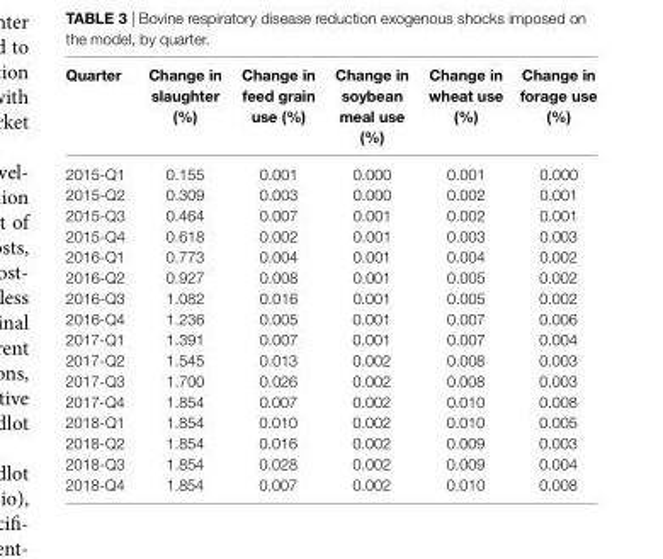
<table><thead><tr><td>Quarter</td><td>change in slaughter (%)</td><td>change in feed grain use (%)</td><td>change in soybean meal use (%)</td><td>change in wheat use (%)</td><td>change in forage use (%)</td></tr></thead><tbody><tr><td>2015-Q1</td><td>0.155</td><td>0.001</td><td>0.000</td><td>0.001</td><td>0.000</td></tr><tr><td>2015-Q2</td><td>0.309</td><td>0.003</td><td>0.000</td><td>0.002</td><td>0.001</td></tr><tr><td>2015-Q3</td><td>0.464</td><td>0.007</td><td>0.001</td><td>0.002</td><td>0.001</td></tr><tr><td>2015-Q4</td><td>0.618</td><td>0.002</td><td>0.001</td><td>0.003</td><td>0.003</td></tr><tr><td>2016-Q1</td><td>0.773</td><td>0.004</td><td>0.001</td><td>0.004</td><td>0.002</td></tr><tr><td>2016-Q2</td><td>0.927</td><td>0.008</td><td>0.001</td><td>0.005</td><td>0.002</td></tr><tr><td>2016-Q3</td><td>1.082</td><td>0.016</td><td>0.001</td><td>0.005</td><td>0.002</td></tr><tr><td>2016-Q4</td><td>1.236</td><td>0.005</td><td>0.001</td><td>0.007</td><td>0.006</td></tr><tr><td>2017-Q1</td><td>1.391</td><td>0.007</td><td>0.001</td><td>0.007</td><td>0.004</td></tr><tr><td>2017-Q2</td><td>1.545</td><td>0.013</td><td>0.002</td><td>0.008</td><td>0.003</td></tr><tr><td>2017-Q3</td><td>1.700</td><td>0.026</td><td>0.002</td><td>0.008</td><td>0.003</td></tr><tr><td>2017-Q4</td><td>1.854</td><td>0.007</td><td>0.002</td><td>0.010</td><td>0.008</td></tr><tr><td>2018-Q1</td><td>1.854</td><td>0.010</td><td>0.002</td><td>0.010</td><td>0.005</td></tr><tr><td>2018-Q2</td><td>1.854</td><td>0.016</td><td>0.002</td><td>0.009</td><td>0.003</td></tr><tr><td>2018-Q3</td><td>1.854</td><td>0.028</td><td>0.002</td><td>0.009</td><td>0.004</td></tr><tr><td>2018-Q4</td><td>1.854</td><td>0.007</td><td>0.002</td><td>0.010</td><td>0.008</td></tr></tbody></table>